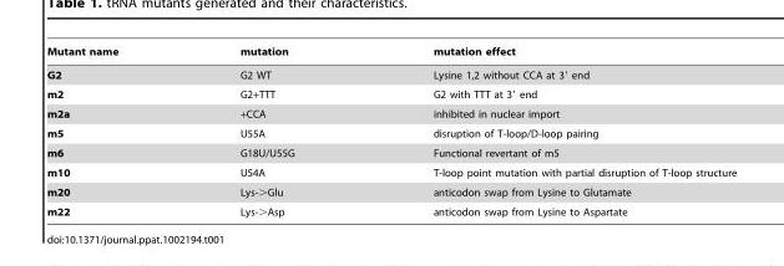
<table><thead><tr><td>Mutant name</td><td>mutation</td><td>mutation effect</td></tr></thead><tbody><tr><td>G2</td><td>G2 WT</td><td>Lysine 1,2 without CCA at 3′ end</td></tr><tr><td>m2</td><td>G2+TTT</td><td>G2 with TTT at 3′ end</td></tr><tr><td>m2a</td><td>+CCA</td><td>inhibited in nuclear import</td></tr><tr><td>m5</td><td>U55A</td><td>disruption of T-loop/D-loop pairing</td></tr><tr><td>m6</td><td>G18U/U55G</td><td>Functional revertant of m5</td></tr><tr><td>m10</td><td>U54A</td><td>T-loop point mutation with partial disruption of T-loop structure</td></tr><tr><td>m20</td><td>Lys-&gt;Glu</td><td>anticodon swap from Lysine to Glutamate</td></tr><tr><td>m22</td><td>Lys-&gt;Asp</td><td>anticodon swap from Lysine to Aspartate</td></tr></tbody></table>